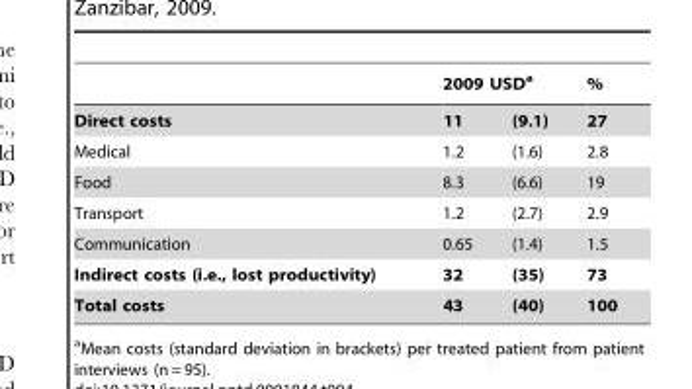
<table><thead><tr><td rowspan="2">Direct costs</td><td colspan="2">2009 USD<sup>a</sup></td><td rowspan="2">% 27</td></tr><tr><td>11</td><td>(9.1)</td></tr></thead><tbody><tr><td>Medical</td><td>1.2</td><td>(1.6)</td><td>2.8</td></tr><tr><td>Food</td><td>8.3</td><td>(6.6)</td><td>19</td></tr><tr><td>Transport</td><td>1.2</td><td>(2.7)</td><td>2.9</td></tr><tr><td>Communication</td><td>0.65</td><td>(1.4)</td><td>1.5</td></tr><tr><td>Indirect costs (i.e., lost productivity)</td><td>32</td><td>(35)</td><td>73</td></tr><tr><td>Total costs</td><td>43</td><td>(40)</td><td>100</td></tr></tbody></table>